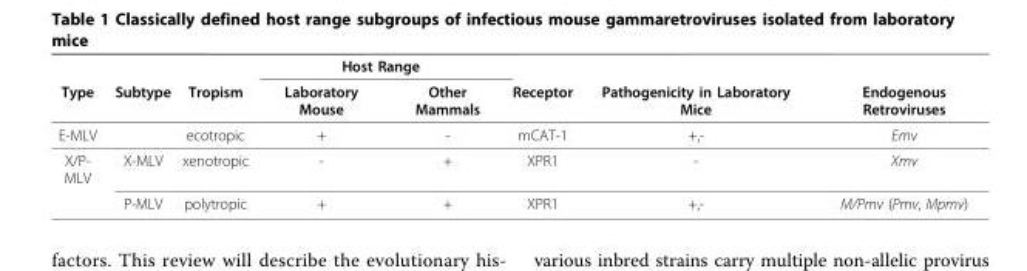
<table><thead><tr><td rowspan="2">Type</td><td rowspan="2">Subtype</td><td rowspan="2">Tropism</td><td colspan="2">Host Range</td><td rowspan="2">Receptor</td><td rowspan="2">Pathogenicity in Laboratory Mice</td><td rowspan="2">Endogenous Retroviruses</td></tr><tr><td>Laboratory Mouse</td><td>Other Mammals</td></tr></thead><tbody><tr><td>E-MLV</td><td></td><td>ecotropic</td><td>+</td><td>-</td><td>mCAT-1</td><td>+,-</td><td>Emv</td></tr><tr><td rowspan="2">X/P- MLV</td><td>X-MLV</td><td>xenotropic</td><td>-</td><td>+</td><td>XPR1</td><td>-</td><td>Xmv</td></tr><tr><td>P-MLV</td><td>polytropic</td><td>+</td><td>+</td><td>XPR1</td><td>+,-</td><td>M/Pmv (Pmv, Mpmv)</td></tr></tbody></table>